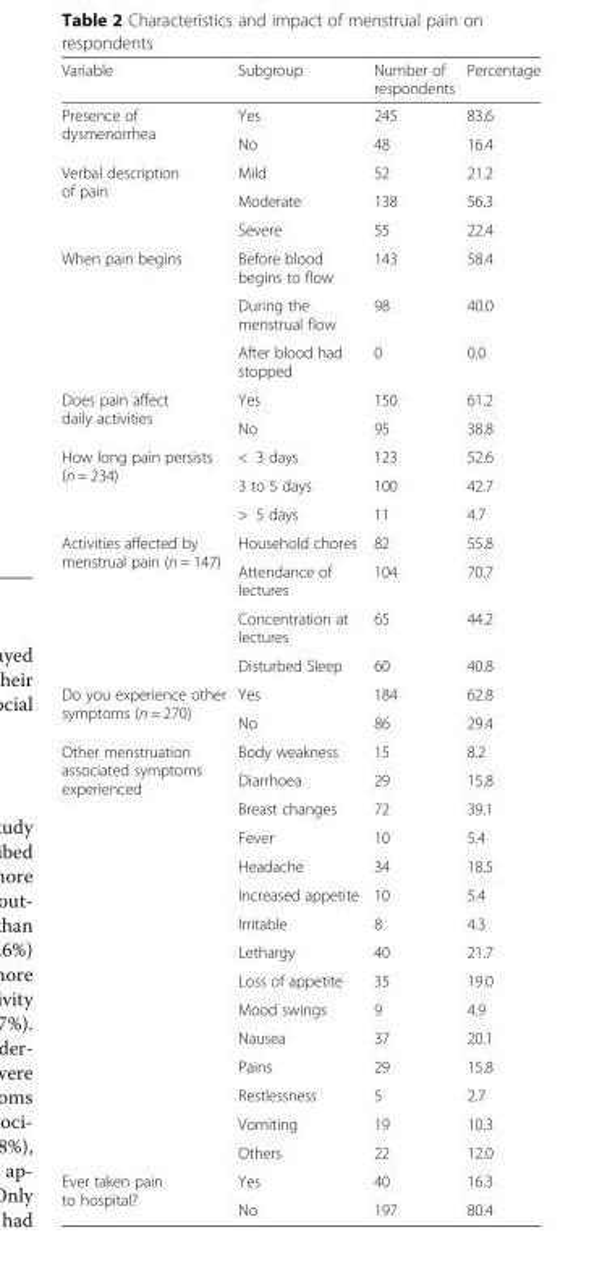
<table><thead><tr><td>Variable</td><td>Subgroup</td><td>Number of respondents</td><td>Percentage</td></tr></thead><tbody><tr><td rowspan="2">Presence of dysmenorrhea</td><td>Yes</td><td>245</td><td>83.6</td></tr><tr><td>No</td><td>48</td><td>16.4</td></tr><tr><td rowspan="3">Verbal description of pain</td><td>Mild</td><td>52</td><td>21.2</td></tr><tr><td>Moderate</td><td>138</td><td>56.3</td></tr><tr><td>Severe</td><td>55</td><td>22.4</td></tr><tr><td rowspan="3">When pain begins</td><td>Before blood begins to flow</td><td>143</td><td>58.4</td></tr><tr><td>During the menstrual flow</td><td>98</td><td>40.0</td></tr><tr><td>After blood had stopped</td><td>0</td><td>0.0</td></tr><tr><td rowspan="2">Does pain affect daily activities</td><td>Yes</td><td>150</td><td>61.2</td></tr><tr><td>No</td><td>95</td><td>38.8</td></tr><tr><td rowspan="3">How long pain persists (n = 234)</td><td>&lt; 3 days</td><td>123</td><td>52.6</td></tr><tr><td>3 to 5 days</td><td>100</td><td>42.7</td></tr><tr><td>&gt; 5 days</td><td>11</td><td>4.7</td></tr><tr><td rowspan="4">Activities affected by menstrual pain (n = 147)</td><td>Household chores</td><td>82</td><td>55.8</td></tr><tr><td>Attendance of lectures</td><td>104</td><td>70.7</td></tr><tr><td>Concentration at lectures</td><td>65</td><td>44.2</td></tr><tr><td>Disturbed Sleep</td><td>60</td><td>40.8</td></tr><tr><td rowspan="2">Do you experience other symptoms (n = 270)</td><td>Yes</td><td>184</td><td>62.8</td></tr><tr><td>No</td><td>86</td><td>29.4</td></tr><tr><td rowspan="15">Other menstruation associated symptoms experienced</td><td>Body weakness</td><td>15</td><td>8.2</td></tr><tr><td>Diarrhoea</td><td>29</td><td>15.8</td></tr><tr><td>Breast changes</td><td>72</td><td>39.1</td></tr><tr><td>Fever</td><td>10</td><td>5.4</td></tr><tr><td>Headache</td><td>34</td><td>18.5</td></tr><tr><td>Increased appetite</td><td>10</td><td>5.4</td></tr><tr><td>Irritable</td><td>8</td><td>4.3</td></tr><tr><td>Lethargy</td><td>40</td><td>21.7</td></tr><tr><td>Loss of appetite</td><td>35</td><td>19.0</td></tr><tr><td>Mood swings</td><td>9</td><td>4.9</td></tr><tr><td>Nausea</td><td>37</td><td>20.1</td></tr><tr><td>Pains</td><td>29</td><td>15.8</td></tr><tr><td>Restlessness</td><td>5</td><td>2.7</td></tr><tr><td>Vomiting</td><td>19</td><td>10.3</td></tr><tr><td>Others</td><td>22</td><td>12.0</td></tr><tr><td rowspan="2">Ever taken pain to hospital?</td><td>Yes</td><td>40</td><td>16.3</td></tr><tr><td>No</td><td>197</td><td>80.4</td></tr></tbody></table>